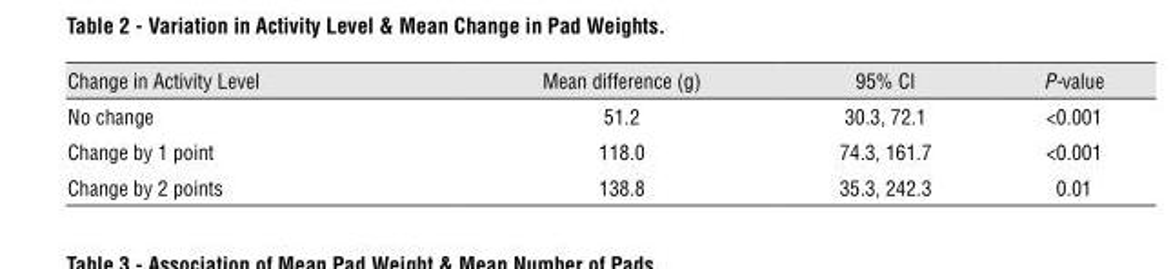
<table><thead><tr><td>Change in Activity Level</td><td>Mean difference (g)</td><td>95% CI</td><td>P-value</td></tr></thead><tbody><tr><td>No change</td><td>51.2</td><td>30.3, 72.1</td><td>&lt;0.001</td></tr><tr><td>Change by 1 point</td><td>118.0</td><td>74.3, 161.7</td><td>&lt;0.001</td></tr><tr><td>Change by 2 points</td><td>138.8</td><td>35.3, 242.3</td><td>0.01</td></tr></tbody></table>